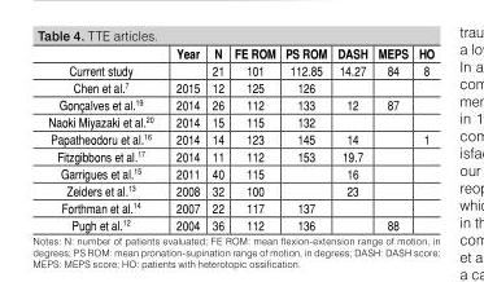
<table><thead><tr><td></td><td>Year</td><td>N</td><td>FE ROM</td><td>PS ROM</td><td>DASH</td><td>MEPS</td><td>HO</td></tr></thead><tbody><tr><td>Current study</td><td></td><td>21</td><td>101</td><td>112.85</td><td>14.27</td><td>84</td><td>8</td></tr><tr><td>Chen et al.<sup>7</sup></td><td>2015</td><td>12</td><td>125</td><td>126</td><td></td><td></td><td></td></tr><tr><td>Gonçalves et al.<sup>19</sup></td><td>2014</td><td>26</td><td>112</td><td>133</td><td>12</td><td>87</td><td></td></tr><tr><td>Naoki Miyazaki et al.<sup>20</sup></td><td>2014</td><td>15</td><td>115</td><td>132</td><td></td><td></td><td></td></tr><tr><td>Papatheodoru et al.<sup>16</sup></td><td>2014</td><td>14</td><td>123</td><td>145</td><td>14</td><td></td><td>1</td></tr><tr><td>Fitzgibbons et al.<sup>17</sup></td><td>2014</td><td>11</td><td>112</td><td>153</td><td>19.7</td><td></td><td></td></tr><tr><td>Garrigues et al.<sup>15</sup></td><td>2011</td><td>40</td><td>115</td><td></td><td>16</td><td></td><td></td></tr><tr><td>Zeiders et al.<sup>13</sup></td><td>2008</td><td>32</td><td>100</td><td></td><td>23</td><td></td><td></td></tr><tr><td>Forthman et al.<sup>14</sup></td><td>2007</td><td>22</td><td>117</td><td>137</td><td></td><td></td><td></td></tr><tr><td>Pugh et al.<sup>12</sup></td><td>2004</td><td>36</td><td>112</td><td>136</td><td></td><td>88</td><td></td></tr></tbody></table>